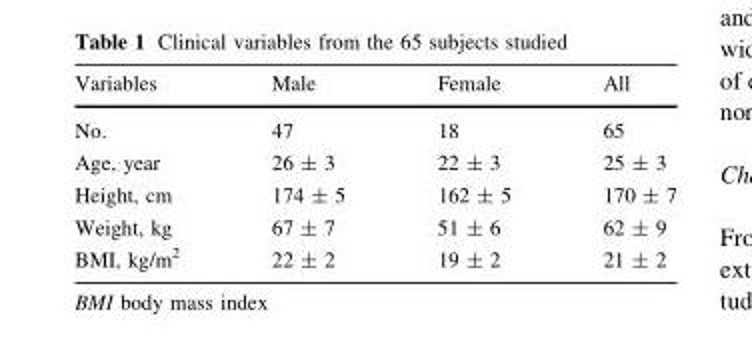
<table><thead><tr><td>Variables</td><td>Male</td><td>Female</td><td>All</td></tr></thead><tbody><tr><td>No.</td><td>47</td><td>18</td><td>65</td></tr><tr><td>Age, year</td><td>26 ± 3</td><td>22 ± 3</td><td>25 ± 3</td></tr><tr><td>Height, cm</td><td>174 ± 5</td><td>162 ± 5</td><td>170 ± 7</td></tr><tr><td>Weight, kg</td><td>67 ± 7</td><td>51 ± 6</td><td>62 ± 9</td></tr><tr><td>BMI, kg/m<sup>2</sup></td><td>22 ± 2</td><td>19 ± 2</td><td>21 ± 2</td></tr></tbody></table>